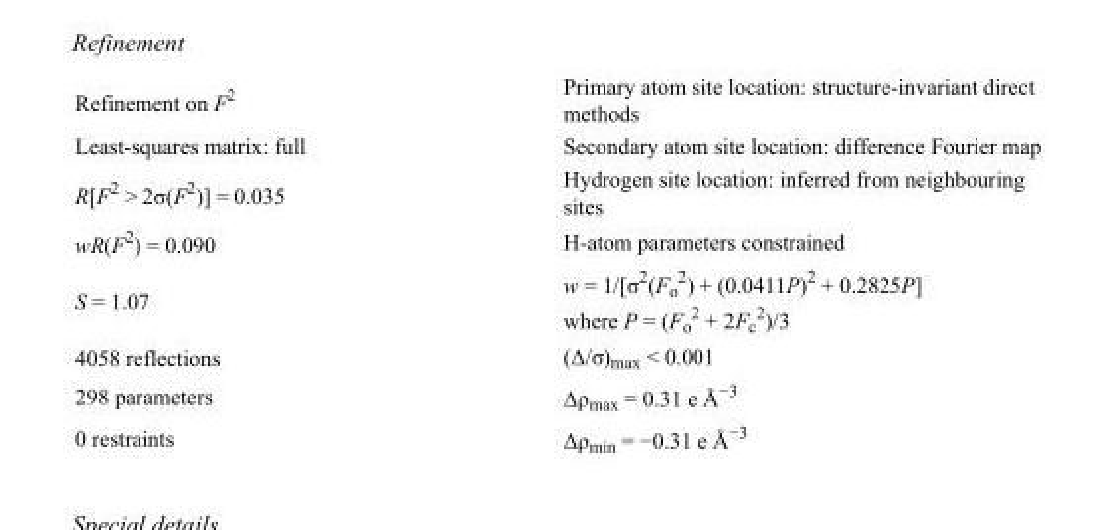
<table><tbody><tr><td>Refinement on F<sup>2</sup></td><td>Primary atom site location: structure-invariant direct methods</td></tr><tr><td>Least-squares matrix: full</td><td>Secondary atom site location: difference Fourier map</td></tr><tr><td>R[F<sup>2</sup> &gt; 2σ(F<sup>2</sup>)] = 0.035</td><td>Hydrogen site location: inferred from neighbouring sites</td></tr><tr><td>wR(F<sup>2</sup>) = 0.090</td><td>H-atom parameters constrained</td></tr><tr><td>S = 1.07</td><td>w = 1/[σ<sup>2</sup>(F<sub>o</sub> <sup>2</sup>) + (0.0411P)<sup>2</sup> + 0.2825P] where P = (F<sub>o</sub> <sup>2</sup> + 2F<sub>c</sub> <sup>2</sup>)/3</td></tr><tr><td>4058 reflections</td><td>(Δ/σ)<sub>max</sub> &lt; 0.001</td></tr><tr><td>298 parameters</td><td>Δρ<sub>max</sub> = 0.31 e Å<sup>−3</sup></td></tr><tr><td>0 restraints</td><td>Δρ<sub>min</sub> = −0.31 e Å<sup>−3</sup></td></tr></tbody></table>